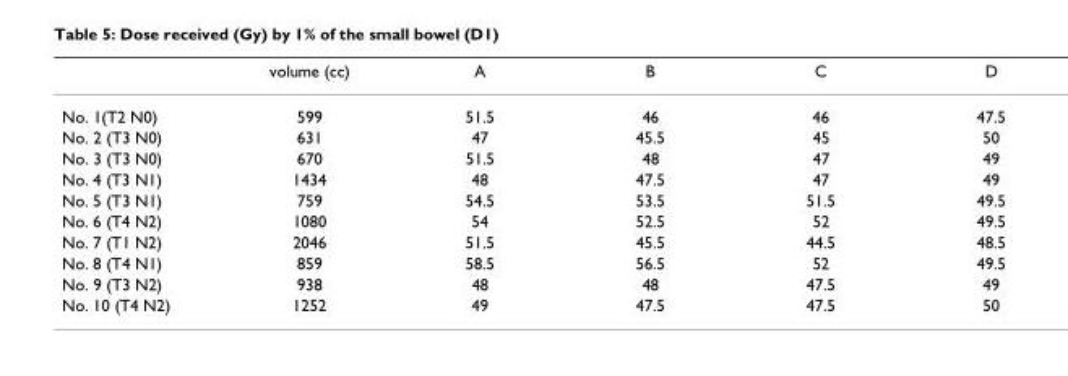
<table><thead><tr><td></td><td>volume (cc)</td><td>A</td><td>B</td><td>C</td><td>D</td></tr></thead><tbody><tr><td>No. 1(T2 N0)</td><td>599</td><td>51.5</td><td>46</td><td>46</td><td>47.5</td></tr><tr><td>No. 2 (T3 N0)</td><td>631</td><td>47</td><td>45.5</td><td>45</td><td>50</td></tr><tr><td>No. 3 (T3 N0)</td><td>670</td><td>51.5</td><td>48</td><td>47</td><td>49</td></tr><tr><td>No. 4 (T3 N1)</td><td>1434</td><td>48</td><td>47.5</td><td>47</td><td>49</td></tr><tr><td>No. 5 (T3 N1)</td><td>759</td><td>54.5</td><td>53.5</td><td>51.5</td><td>49.5</td></tr><tr><td>No. 6 (T4 N2)</td><td>1080</td><td>54</td><td>52.5</td><td>52</td><td>49.5</td></tr><tr><td>No. 7 (T1 N2)</td><td>2046</td><td>51.5</td><td>45.5</td><td>44.5</td><td>48.5</td></tr><tr><td>No. 8 (T4 N1)</td><td>859</td><td>58.5</td><td>56.5</td><td>52</td><td>49.5</td></tr><tr><td>No. 9 (T3 N2)</td><td>938</td><td>48</td><td>48</td><td>47.5</td><td>49</td></tr><tr><td>No. 10 (T4 N2)</td><td>1252</td><td>49</td><td>47.5</td><td>47.5</td><td>50</td></tr></tbody></table>